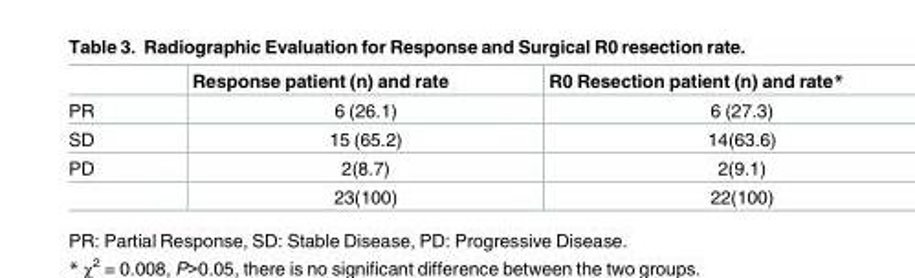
<table><thead><tr><td></td><td>Response patient (n) and rate</td><td>R0 Resection patient (n) and rate*</td></tr></thead><tbody><tr><td>PR</td><td>6 (26.1)</td><td>6 (27.3)</td></tr><tr><td>SD</td><td>15 (65.2)</td><td>14(63.6)</td></tr><tr><td rowspan="2">PD</td><td>2(8.7)</td><td>2(9.1)</td></tr><tr><td>23(100)</td><td>22(100)</td></tr></tbody></table>